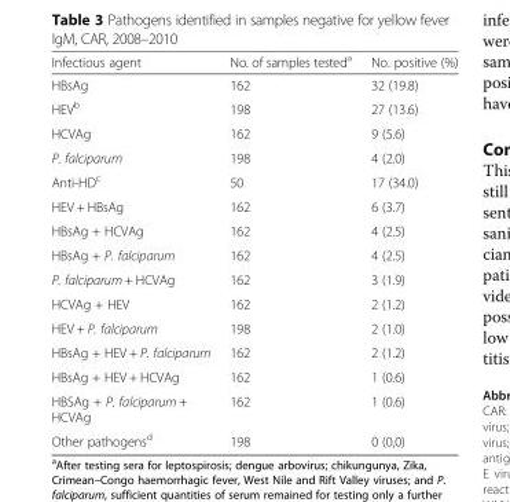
<table><thead><tr><td>Infectious agent</td><td>No. of samples tested<sup>a</sup></td><td>No. positive (%)</td></tr></thead><tbody><tr><td>HBsAg</td><td>162</td><td>32 (19.8)</td></tr><tr><td>HEV<sup>b</sup></td><td>198</td><td>27 (13.6)</td></tr><tr><td>HCVAg</td><td>162</td><td>9 (5.6)</td></tr><tr><td>P. falciparum</td><td>198</td><td>4 (2.0)</td></tr><tr><td>Anti-HD<sup>c</sup></td><td>50</td><td>17 (34.0)</td></tr><tr><td>HEV + HBsAg</td><td>162</td><td>6 (3.7)</td></tr><tr><td>HBsAg + HCVAg</td><td>162</td><td>4 (2.5)</td></tr><tr><td>HBsAg + P. falciparum</td><td>162</td><td>4 (2.5)</td></tr><tr><td>P. falciparum + HCVAg</td><td>162</td><td>3 (1.9)</td></tr><tr><td>HCVAg + HEV</td><td>162</td><td>2 (1.2)</td></tr><tr><td>HEV + P. falciparum</td><td>198</td><td>2 (1.0)</td></tr><tr><td>HBsAg + HEV + P. falciparum</td><td>162</td><td>2 (1.2)</td></tr><tr><td>HBsAg + HEV + HCVAg</td><td>162</td><td>1 (0.6)</td></tr><tr><td>HBSAg + P. falciparum + HCVAg</td><td>162</td><td>1 (0.6)</td></tr><tr><td>Other pathogens<sup>d</sup></td><td>198</td><td>0 (0,0)</td></tr></tbody></table>